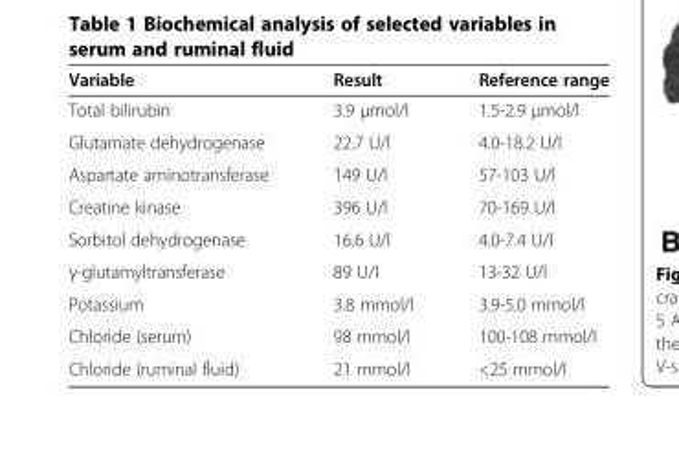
<table><thead><tr><td>Variable</td><td>Result</td><td>Reference range</td></tr></thead><tbody><tr><td>Total bilirubin</td><td>3.9 μmol/l</td><td>1.5-2.9 μmol/l</td></tr><tr><td>Glutamate dehydrogenase</td><td>22.7 U/l</td><td>4.0-18.2 U/l</td></tr><tr><td>Aspartate aminotransferase</td><td>149 U/l</td><td>57-103 U/l</td></tr><tr><td>Creatine kinase</td><td>396 U/l</td><td>70-169 U/l</td></tr><tr><td>Sorbitol dehydrogenase</td><td>16.6 U/l</td><td>4.0-7.4 U/l</td></tr><tr><td>γ-glutamyltransferase</td><td>89 U/l</td><td>13-32 U/l</td></tr><tr><td>Potassium</td><td>3.8 mmol/l</td><td>3.9-5.0 mmol/l</td></tr><tr><td>Chloride (serum)</td><td>98 mmol/l</td><td>100-108 mmol/l</td></tr><tr><td>Chloride (ruminal fluid)</td><td>21 mmol/l</td><td>&lt;25 mmol/l</td></tr></tbody></table>